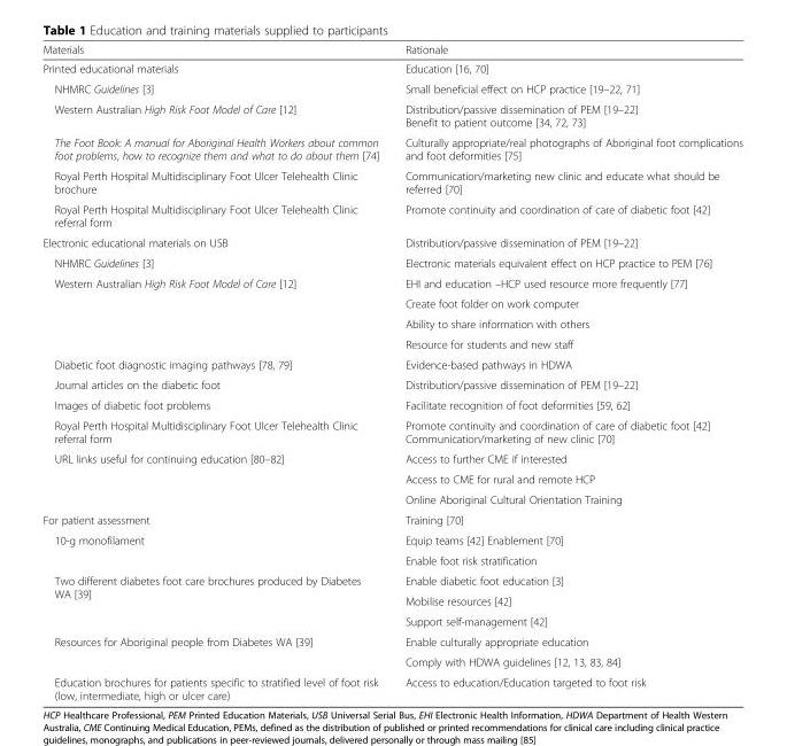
<table><thead><tr><td>Materials</td><td>Rationale</td></tr></thead><tbody><tr><td>Printed educational materials</td><td>Education [16, 70]</td></tr><tr><td>NHMRC Guidelines [3]</td><td>Small beneficial effect on HCP practice [19–22, 71]</td></tr><tr><td>Western Australian High Risk Foot Model of Care [12]</td><td>Distribution/passive dissemination of PEM [19–22] Benefit to patient outcome [34, 72, 73]</td></tr><tr><td>The Foot Book: A manual for Aboriginal Health Workers about common foot problems, how to recognize them and what to do about them [74]</td><td>Culturally appropriate/real photographs of Aboriginal foot complications and foot deformities [75]</td></tr><tr><td>Royal Perth Hospital Multidisciplinary Foot Ulcer Telehealth Clinic brochure</td><td>Communication/marketing new clinic and educate what should be referred [70]</td></tr><tr><td>Royal Perth Hospital Multidisciplinary Foot Ulcer Telehealth Clinic referral form</td><td>Promote continuity and coordination of care of diabetic foot [42]</td></tr><tr><td>Electronic educational materials on USB</td><td>Distribution/passive dissemination of PEM [19–22]</td></tr><tr><td>NHMRC Guidelines [3]</td><td>Electronic materials equivalent effect on HCP practice to PEM [76]</td></tr><tr><td rowspan="4">Western Australian High Risk Foot Model of Care [12]</td><td>EHI and education –HCP used resource more frequently [77]</td></tr><tr><td>Create foot folder on work computer</td></tr><tr><td>Ability to share information with others</td></tr><tr><td>Resource for students and new staff</td></tr><tr><td>Diabetic foot diagnostic imaging pathways [78, 79]</td><td>Evidence-based pathways in HDWA</td></tr><tr><td>Journal articles on the diabetic foot</td><td>Distribution/passive dissemination of PEM [19–22]</td></tr><tr><td>Images of diabetic foot problems</td><td>Facilitate recognition of foot deformities [59, 62]</td></tr><tr><td>Royal Perth Hospital Multidisciplinary Foot Ulcer Telehealth Clinic referral form</td><td>Promote continuity and coordination of care of diabetic foot [42] Communication/marketing of new clinic [70]</td></tr><tr><td rowspan="3">URL links useful for continuing education [80–82]</td><td>Access to further CME if interested</td></tr><tr><td>Access to CME for rural and remote HCP</td></tr><tr><td>Online Aboriginal Cultural Orientation Training</td></tr><tr><td>For patient assessment</td><td>Training [70]</td></tr><tr><td rowspan="2">10-g monofilament</td><td>Equip teams [42] Enablement [70]</td></tr><tr><td>Enable foot risk stratification</td></tr><tr><td rowspan="3">Two different diabetes foot care brochures produced by Diabetes WA [39]</td><td>Enable diabetic foot education [3]</td></tr><tr><td>Mobilise resources [42]</td></tr><tr><td>Support self-management [42]</td></tr><tr><td rowspan="2">Resources for Aboriginal people from Diabetes WA [39]</td><td>Enable culturally appropriate education</td></tr><tr><td>Comply with HDWA guidelines [12, 13, 83, 84]</td></tr><tr><td>Education brochures for patients specific to stratified level of foot risk (low, intermediate, high or ulcer care)</td><td>Access to education/Education targeted to foot risk</td></tr></tbody></table>